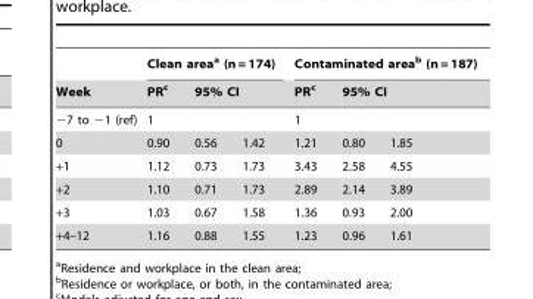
<table><thead><tr><td rowspan="4">Week −7 to −1 (ref) 0</td><td colspan="3">Clean area<sup>a</sup> (n = 174)</td><td colspan="3">Contaminated area<sup>b</sup> (n = 187)</td></tr><tr><td rowspan="3">PR<sup>c</sup> 1 0.90</td><td rowspan="2" colspan="2">95% CI</td><td rowspan="3">PR<sup>c</sup> 1 1.21</td><td rowspan="2" colspan="2">95% CI</td></tr><tr></tr><tr><td>0.56</td><td>1.42</td><td>0.80</td><td>1.85</td></tr></thead><tbody><tr><td>+1</td><td>1.12</td><td>0.73</td><td>1.73</td><td>3.43</td><td>2.58</td><td>4.55</td></tr><tr><td>+2</td><td>1.10</td><td>0.71</td><td>1.73</td><td>2.89</td><td>2.14</td><td>3.89</td></tr><tr><td>+3</td><td>1.03</td><td>0.67</td><td>1.58</td><td>1.36</td><td>0.93</td><td>2.00</td></tr><tr><td>+4–12</td><td>1.16</td><td>0.88</td><td>1.55</td><td>1.23</td><td>0.96</td><td>1.61</td></tr></tbody></table>